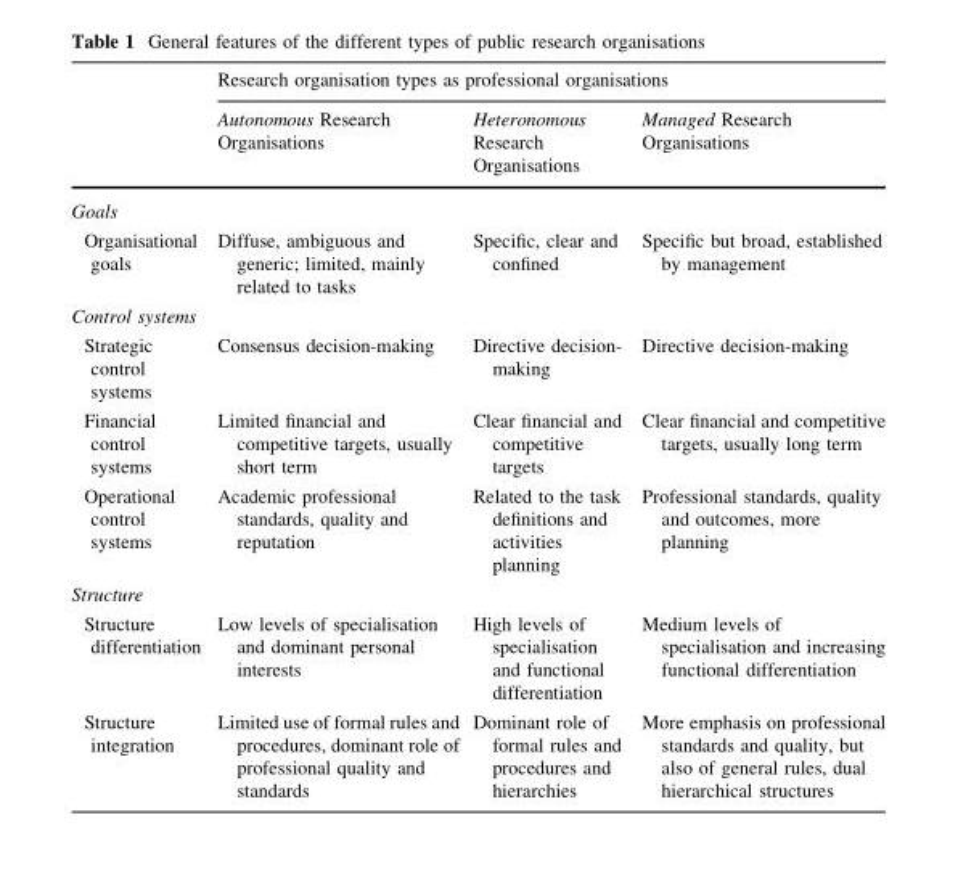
<table><thead><tr><td rowspan="2"></td><td colspan="3">Research organisation types as professional organisations</td></tr><tr><td>Autonomous Research Organisations</td><td>Heteronomous Research Organisations</td><td>Managed Research Organisations</td></tr></thead><tbody><tr><td colspan="4">Goals</td></tr><tr><td>Organisational goals</td><td>Diffuse, ambiguous and generic; limited, mainly related to tasks</td><td>Specific, clear and confined</td><td>Specific but broad, established by management</td></tr><tr><td colspan="4">Control systems</td></tr><tr><td>Strategic control systems</td><td>Consensus decision-making</td><td>Directive decision- making</td><td>Directive decision-making</td></tr><tr><td>Financial control systems</td><td>Limited financial and competitive targets, usually short term</td><td>Clear financial and competitive targets</td><td>Clear financial and competitive targets, usually long term</td></tr><tr><td>Operational control systems</td><td>Academic professional standards, quality and reputation</td><td>Related to the task definitions and activities planning</td><td>Professional standards, quality and outcomes, more planning</td></tr><tr><td colspan="4">Structure</td></tr><tr><td>Structure differentiation</td><td>Low levels of specialisation and dominant personal interests</td><td>High levels of specialisation and functional differentiation</td><td>Medium levels of specialisation and increasing functional differentiation</td></tr><tr><td>Structure integration</td><td>Limited use of formal rules and procedures, dominant role of professional quality and standards</td><td>Dominant role of formal rules and procedures and hierarchies</td><td>More emphasis on professional standards and quality, but also of general rules, dual hierarchical structures</td></tr></tbody></table>